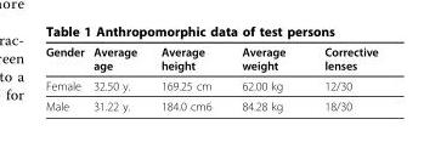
<table><thead><tr><td>Gender</td><td>Average age</td><td>Average height</td><td>Average weight</td><td>Corrective lenses</td></tr></thead><tbody><tr><td>Female</td><td>32.50 y.</td><td>169.25 cm</td><td>62.00 kg</td><td>12/30</td></tr><tr><td>Male</td><td>31.22 y.</td><td>184.0 cm6</td><td>84.28 kg</td><td>18/30</td></tr></tbody></table>